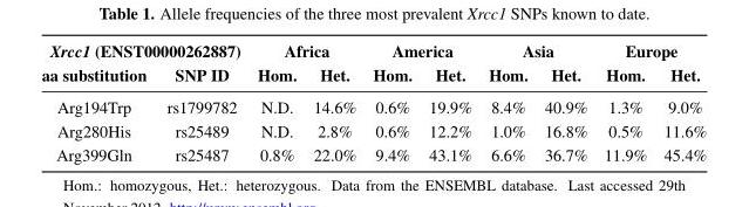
<table><thead><tr><td colspan="2">Xrcc1 (ENST00000262887)</td><td colspan="2">Africa</td><td colspan="2">America</td><td colspan="2">Asia</td><td colspan="2">Europe</td></tr><tr><td>aa substitution</td><td>SNP ID</td><td>Hom.</td><td>Het.</td><td>Hom.</td><td>Het.</td><td>Hom.</td><td>Het.</td><td>Hom.</td><td>Het.</td></tr></thead><tbody><tr><td>Arg194Trp</td><td>rs1799782</td><td>N.D.</td><td>14.6%</td><td>0.6%</td><td>19.9%</td><td>8.4%</td><td>40.9%</td><td>1.3%</td><td>9.0%</td></tr><tr><td>Arg280His</td><td>rs25489</td><td>N.D.</td><td>2.8%</td><td>0.6%</td><td>12.2%</td><td>1.0%</td><td>16.8%</td><td>0.5%</td><td>11.6%</td></tr><tr><td>Arg399Gln</td><td>rs25487</td><td>0.8%</td><td>22.0%</td><td>9.4%</td><td>43.1%</td><td>6.6%</td><td>36.7%</td><td>11.9%</td><td>45.4%</td></tr></tbody></table>